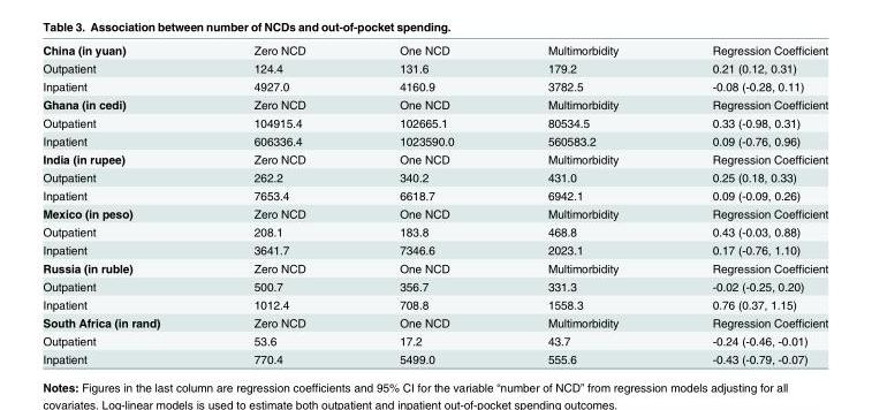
<table><tbody><tr><td>China (in yuan)</td><td>Zero NCD</td><td>One NCD</td><td>Multimorbidity</td><td>Regression Coefficient</td></tr><tr><td>Outpatient</td><td>124.4</td><td>131.6</td><td>179.2</td><td>0.21 (0.12, 0.31)</td></tr><tr><td>Inpatient</td><td>4927.0</td><td>4160.9</td><td>3782.5</td><td>-0.08 (-0.28, 0.11)</td></tr><tr><td>Ghana (in cedi)</td><td>Zero NCD</td><td>One NCD</td><td>Multimorbidity</td><td>Regression Coefficient</td></tr><tr><td>Outpatient</td><td>104915.4</td><td>102665.1</td><td>80534.5</td><td>0.33 (-0.98, 0.31)</td></tr><tr><td>Inpatient</td><td>606336.4</td><td>1023590.0</td><td>560583.2</td><td>0.09 (-0.76, 0.96)</td></tr><tr><td>India (in rupee)</td><td>Zero NCD</td><td>One NCD</td><td>Multimorbidity</td><td>Regression Coefficient</td></tr><tr><td>Outpatient</td><td>262.2</td><td>340.2</td><td>431.0</td><td>0.25 (0.18, 0.33)</td></tr><tr><td>Inpatient</td><td>7653.4</td><td>6618.7</td><td>6942.1</td><td>0.09 (-0.09, 0.26)</td></tr><tr><td>Mexico (in peso)</td><td>Zero NCD</td><td>One NCD</td><td>Multimorbidity</td><td>Regression Coefficient</td></tr><tr><td>Outpatient</td><td>208.1</td><td>183.8</td><td>468.8</td><td>0.43 (-0.03, 0.88)</td></tr><tr><td>Inpatient</td><td>3641.7</td><td>7346.6</td><td>2023.1</td><td>0.17 (-0.76, 1.10)</td></tr><tr><td>Russia (in ruble)</td><td>Zero NCD</td><td>One NCD</td><td>Multimorbidity</td><td>Regression Coefficient</td></tr><tr><td>Outpatient</td><td>500.7</td><td>356.7</td><td>331.3</td><td>-0.02 (-0.25, 0.20)</td></tr><tr><td>Inpatient</td><td>1012.4</td><td>708.8</td><td>1558.3</td><td>0.76 (0.37, 1.15)</td></tr><tr><td>South Africa (in rand)</td><td>Zero NCD</td><td>One NCD</td><td>Multimorbidity</td><td>Regression Coefficient</td></tr><tr><td>Outpatient</td><td>53.6</td><td>17.2</td><td>43.7</td><td>-0.24 (-0.46, -0.01)</td></tr><tr><td>Inpatient</td><td>770.4</td><td>5499.0</td><td>555.6</td><td>-0.43 (-0.79, -0.07)</td></tr></tbody></table>